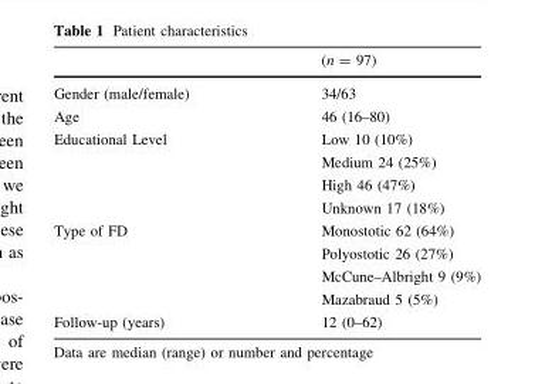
<table><thead><tr><td></td><td>(n = 97)</td></tr></thead><tbody><tr><td>Gender (male/female)</td><td>34/63</td></tr><tr><td>Age</td><td>46 (16–80)</td></tr><tr><td rowspan="4">Educational Level</td><td>Low 10 (10%)</td></tr><tr><td>Medium 24 (25%)</td></tr><tr><td>High 46 (47%)</td></tr><tr><td>Unknown 17 (18%)</td></tr><tr><td rowspan="4">Type of FD</td><td>Monostotic 62 (64%)</td></tr><tr><td>Polyostotic 26 (27%)</td></tr><tr><td>McCune–Albright 9 (9%)</td></tr><tr><td>Mazabraud 5 (5%)</td></tr><tr><td>Follow-up (years)</td><td>12 (0–62)</td></tr></tbody></table>